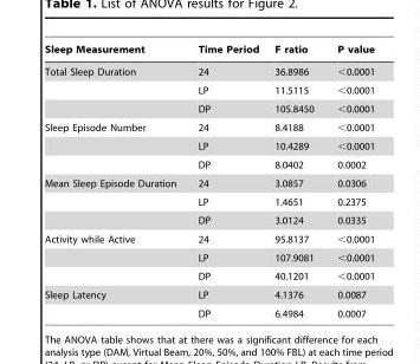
<table><thead><tr><td>Sleep Measurement</td><td>Time Period</td><td>F ratio</td><td>P value</td></tr></thead><tbody><tr><td rowspan="3">Total Sleep Duration</td><td>24</td><td>36.8986</td><td>&lt;0.0001</td></tr><tr><td>LP</td><td>11.5115</td><td>&lt;0.0001</td></tr><tr><td>DP</td><td>105.8450</td><td>&lt;0.0001</td></tr><tr><td rowspan="3">Sleep Episode Number</td><td>24</td><td>8.4188</td><td>&lt;0.0001</td></tr><tr><td>LP</td><td>10.4289</td><td>&lt;0.0001</td></tr><tr><td>DP</td><td>8.0402</td><td>0.0002</td></tr><tr><td rowspan="3">Mean Sleep Episode Duration</td><td>24</td><td>3.0857</td><td>0.0306</td></tr><tr><td>LP</td><td>1.4651</td><td>0.2375</td></tr><tr><td>DP</td><td>3.0124</td><td>0.0335</td></tr><tr><td rowspan="3">Activity while Active</td><td>24</td><td>95.8137</td><td>&lt;0.0001</td></tr><tr><td>LP</td><td>107.9081</td><td>&lt;0.0001</td></tr><tr><td>DP</td><td>40.1201</td><td>&lt;0.0001</td></tr><tr><td rowspan="2">Sleep Latency</td><td>LP</td><td>4.1376</td><td>0.0087</td></tr><tr><td>DP</td><td>6.4984</td><td>0.0007</td></tr></tbody></table>